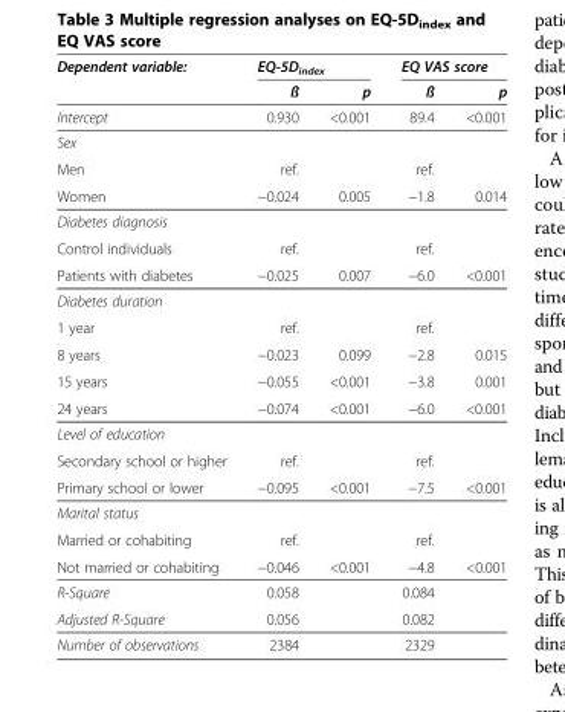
<table><thead><tr><td rowspan="2">Dependent variable:</td><td colspan="2">EQ-5D<sub>index</sub></td><td colspan="2">EQ VAS score</td></tr><tr><td>ß</td><td>p</td><td>ß</td><td>p</td></tr></thead><tbody><tr><td>Intercept</td><td>0.930</td><td>&lt;0.001</td><td>89.4</td><td>&lt;0.001</td></tr><tr><td colspan="5">Sex</td></tr><tr><td>Men</td><td>ref.</td><td></td><td>ref.</td><td></td></tr><tr><td>Women</td><td>−0.024</td><td>0.005</td><td>−1.8</td><td>0.014</td></tr><tr><td colspan="5">Diabetes diagnosis</td></tr><tr><td>Control individuals</td><td>ref.</td><td></td><td>ref.</td><td></td></tr><tr><td>Patients with diabetes</td><td>−0.025</td><td>0.007</td><td>−6.0</td><td>&lt;0.001</td></tr><tr><td colspan="5">Diabetes duration</td></tr><tr><td>1 year</td><td>ref.</td><td></td><td>ref.</td><td></td></tr><tr><td>8 years</td><td>−0.023</td><td>0.099</td><td>−2.8</td><td>0.015</td></tr><tr><td>15 years</td><td>−0.055</td><td>&lt;0.001</td><td>−3.8</td><td>0.001</td></tr><tr><td>24 years</td><td>−0.074</td><td>&lt;0.001</td><td>−6.0</td><td>&lt;0.001</td></tr><tr><td colspan="5">Level of education</td></tr><tr><td>Secondary school or higher</td><td>ref.</td><td></td><td>ref.</td><td></td></tr><tr><td>Primary school or lower</td><td>−0.095</td><td>&lt;0.001</td><td>−7.5</td><td>&lt;0.001</td></tr><tr><td colspan="5">Marital status</td></tr><tr><td>Married or cohabiting</td><td>ref.</td><td></td><td>ref.</td><td></td></tr><tr><td>Not married or cohabiting</td><td>−0.046</td><td>&lt;0.001</td><td>−4.8</td><td>&lt;0.001</td></tr><tr><td>R-Square</td><td>0.058</td><td></td><td>0.084</td><td></td></tr><tr><td>Adjusted R-Square</td><td>0.056</td><td></td><td>0.082</td><td></td></tr><tr><td>Number of observations</td><td>2384</td><td></td><td>2329</td><td></td></tr></tbody></table>